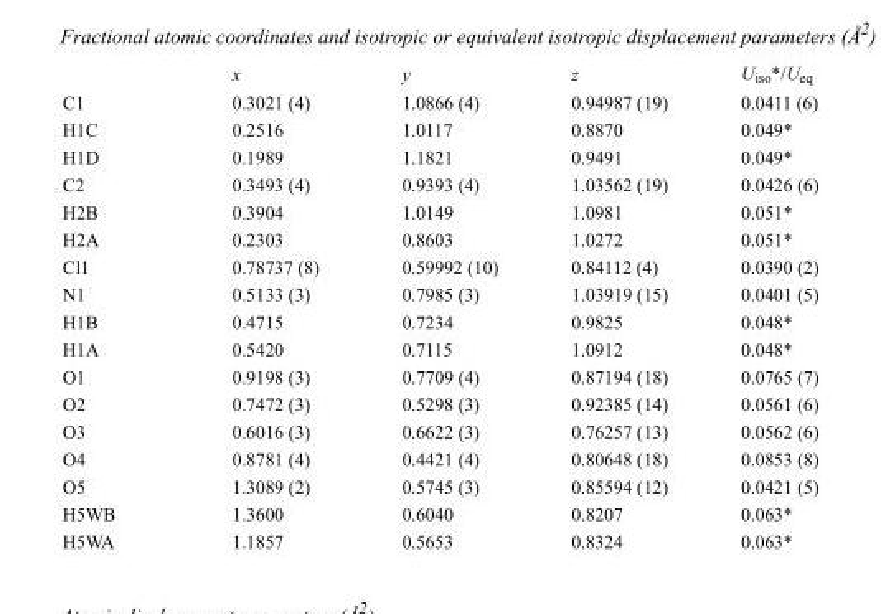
<table><thead><tr><td></td><td>x</td><td>y</td><td>z</td><td>U<sub>iso</sub>*/U<sub>eq</sub></td></tr></thead><tbody><tr><td>C1</td><td>0.3021 (4)</td><td>1.0866 (4)</td><td>0.94987 (19)</td><td>0.0411 (6)</td></tr><tr><td>H1C</td><td>0.2516</td><td>1.0117</td><td>0.8870</td><td>0.049*</td></tr><tr><td>H1D</td><td>0.1989</td><td>1.1821</td><td>0.9491</td><td>0.049*</td></tr><tr><td>C2</td><td>0.3493 (4)</td><td>0.9393 (4)</td><td>1.03562 (19)</td><td>0.0426 (6)</td></tr><tr><td>H2B</td><td>0.3904</td><td>1.0149</td><td>1.0981</td><td>0.051*</td></tr><tr><td>H2A</td><td>0.2303</td><td>0.8603</td><td>1.0272</td><td>0.051*</td></tr><tr><td>Cl1</td><td>0.78737 (8)</td><td>0.59992 (10)</td><td>0.84112 (4)</td><td>0.0390 (2)</td></tr><tr><td>N1</td><td>0.5133 (3)</td><td>0.7985 (3)</td><td>1.03919 (15)</td><td>0.0401 (5)</td></tr><tr><td>H1B</td><td>0.4715</td><td>0.7234</td><td>0.9825</td><td>0.048*</td></tr><tr><td>H1A</td><td>0.5420</td><td>0.7115</td><td>1.0912</td><td>0.048*</td></tr><tr><td>O1</td><td>0.9198 (3)</td><td>0.7709 (4)</td><td>0.87194 (18)</td><td>0.0765 (7)</td></tr><tr><td>O2</td><td>0.7472 (3)</td><td>0.5298 (3)</td><td>0.92385 (14)</td><td>0.0561 (6)</td></tr><tr><td>O3</td><td>0.6016 (3)</td><td>0.6622 (3)</td><td>0.76257 (13)</td><td>0.0562 (6)</td></tr><tr><td>O4</td><td>0.8781 (4)</td><td>0.4421 (4)</td><td>0.80648 (18)</td><td>0.0853 (8)</td></tr><tr><td>O5</td><td>1.3089 (2)</td><td>0.5745 (3)</td><td>0.85594 (12)</td><td>0.0421 (5)</td></tr><tr><td>H5WB</td><td>1.3600</td><td>0.6040</td><td>0.8207</td><td>0.063*</td></tr><tr><td>H5WA</td><td>1.1857</td><td>0.5653</td><td>0.8324</td><td>0.063*</td></tr></tbody></table>